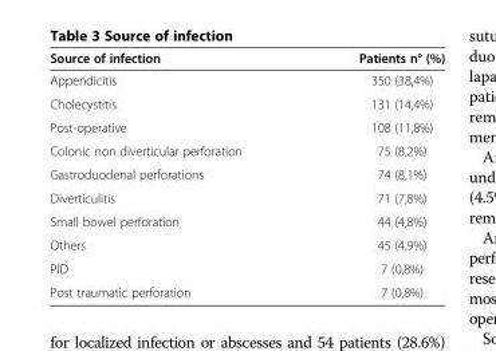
<table><thead><tr><td>Source of infection</td><td>Patients n° (%)</td></tr></thead><tbody><tr><td>Appendicitis</td><td>350 (38,4%)</td></tr><tr><td>Cholecystitis</td><td>131 (14,4%)</td></tr><tr><td>Post-operative</td><td>108 (11,8%)</td></tr><tr><td>Colonic non diverticular perforation</td><td>75 (8,2%)</td></tr><tr><td>Gastroduodenal perforations</td><td>74 (8,1%)</td></tr><tr><td>Diverticulitis</td><td>71 (7,8%)</td></tr><tr><td>Small bowel perforation</td><td>44 (4,8%)</td></tr><tr><td>Others</td><td>45 (4,9%)</td></tr><tr><td>PID</td><td>7 (0,8%)</td></tr><tr><td>Post traumatic perforation</td><td>7 (0,8%)</td></tr></tbody></table>